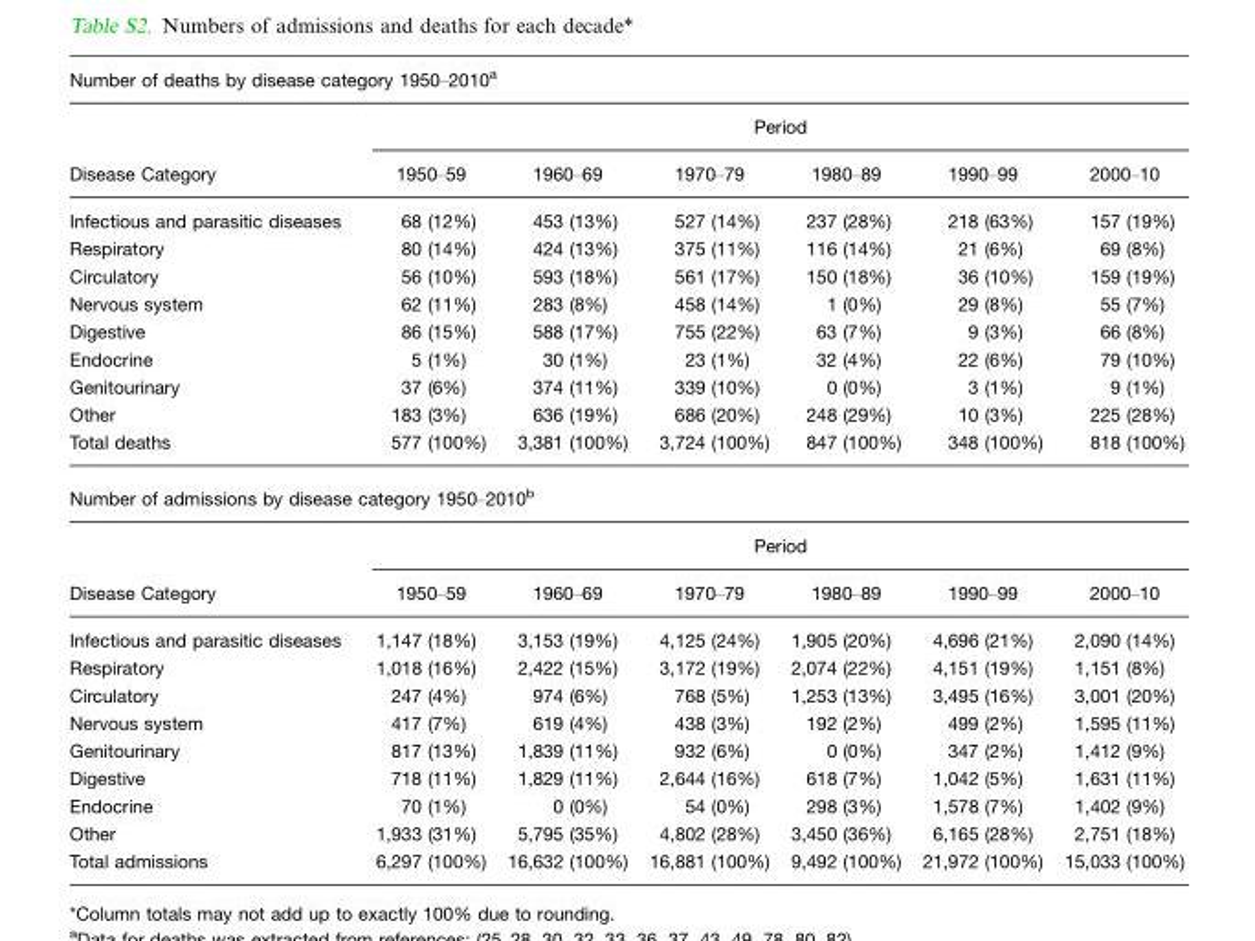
<table><thead><tr><td colspan="7">Number of deaths by disease category 1950–2010<sup>a</sup></td></tr><tr><td rowspan="2">Disease Category</td><td colspan="6">Period</td></tr><tr><td>1950–59</td><td>1960–69</td><td>1970–79</td><td>1980–89</td><td>1990–99</td><td>2000–10</td></tr></thead><tbody><tr><td>Infectious and parasitic diseases</td><td>68 (12%)</td><td>453 (13%)</td><td>527 (14%)</td><td>237 (28%)</td><td>218 (63%)</td><td>157 (19%)</td></tr><tr><td>Respiratory</td><td>80 (14%)</td><td>424 (13%)</td><td>375 (11%)</td><td>116 (14%)</td><td>21 (6%)</td><td>69 (8%)</td></tr><tr><td>Circulatory</td><td>56 (10%)</td><td>593 (18%)</td><td>561 (17%)</td><td>150 (18%)</td><td>36 (10%)</td><td>159 (19%)</td></tr><tr><td>Nervous system</td><td>62 (11%)</td><td>283 (8%)</td><td>458 (14%)</td><td>1 (0%)</td><td>29 (8%)</td><td>55 (7%)</td></tr><tr><td>Digestive</td><td>86 (15%)</td><td>588 (17%)</td><td>755 (22%)</td><td>63 (7%)</td><td>9 (3%)</td><td>66 (8%)</td></tr><tr><td>Endocrine</td><td>5 (1%)</td><td>30 (1%)</td><td>23 (1%)</td><td>32 (4%)</td><td>22 (6%)</td><td>79 (10%)</td></tr><tr><td>Genitourinary</td><td>37 (6%)</td><td>374 (11%)</td><td>339 (10%)</td><td>0 (0%)</td><td>3 (1%)</td><td>9 (1%)</td></tr><tr><td>Other</td><td>183 (3%)</td><td>636 (19%)</td><td>686 (20%)</td><td>248 (29%)</td><td>10 (3%)</td><td>225 (28%)</td></tr><tr><td>Total deaths</td><td>577 (100%)</td><td>3,381 (100%)</td><td>3,724 (100%)</td><td>847 (100%)</td><td>348 (100%)</td><td>818 (100%)</td></tr><tr><td colspan="7">Number of admissions by disease category 1950–2010<sup>b</sup></td></tr><tr><td></td><td colspan="6">Period</td></tr><tr><td>Disease Category</td><td>1950–59</td><td>1960–69</td><td>1970–79</td><td>1980–89</td><td>1990–99</td><td>2000–10</td></tr><tr><td>Infectious and parasitic diseases</td><td>1,147 (18%)</td><td>3,153 (19%)</td><td>4,125 (24%)</td><td>1,905 (20%)</td><td>4,696 (21%)</td><td>2,090 (14%)</td></tr><tr><td>Respiratory</td><td>1,018 (16%)</td><td>2,422 (15%)</td><td>3,172 (19%)</td><td>2,074 (22%)</td><td>4,151 (19%)</td><td>1,151 (8%)</td></tr><tr><td>Circulatory</td><td>247 (4%)</td><td>974 (6%)</td><td>768 (5%)</td><td>1,253 (13%)</td><td>3,495 (16%)</td><td>3,001 (20%)</td></tr><tr><td>Nervous system</td><td>417 (7%)</td><td>619 (4%)</td><td>438 (3%)</td><td>192 (2%)</td><td>499 (2%)</td><td>1,595 (11%)</td></tr><tr><td>Genitourinary</td><td>817 (13%)</td><td>1,839 (11%)</td><td>932 (6%)</td><td>0 (0%)</td><td>347 (2%)</td><td>1,412 (9%)</td></tr><tr><td>Digestive</td><td>718 (11%)</td><td>1,829 (11%)</td><td>2,644 (16%)</td><td>618 (7%)</td><td>1,042 (5%)</td><td>1,631 (11%)</td></tr><tr><td>Endocrine</td><td>70 (1%)</td><td>0 (0%)</td><td>54 (0%)</td><td>298 (3%)</td><td>1,578 (7%)</td><td>1,402 (9%)</td></tr><tr><td>Other</td><td>1,933 (31%)</td><td>5,795 (35%)</td><td>4,802 (28%)</td><td>3,450 (36%)</td><td>6,165 (28%)</td><td>2,751 (18%)</td></tr><tr><td>Total admissions</td><td>6,297 (100%)</td><td>16,632 (100%)</td><td>16,881 (100%)</td><td>9,492 (100%)</td><td>21,972 (100%)</td><td>15,033 (100%)</td></tr></tbody></table>